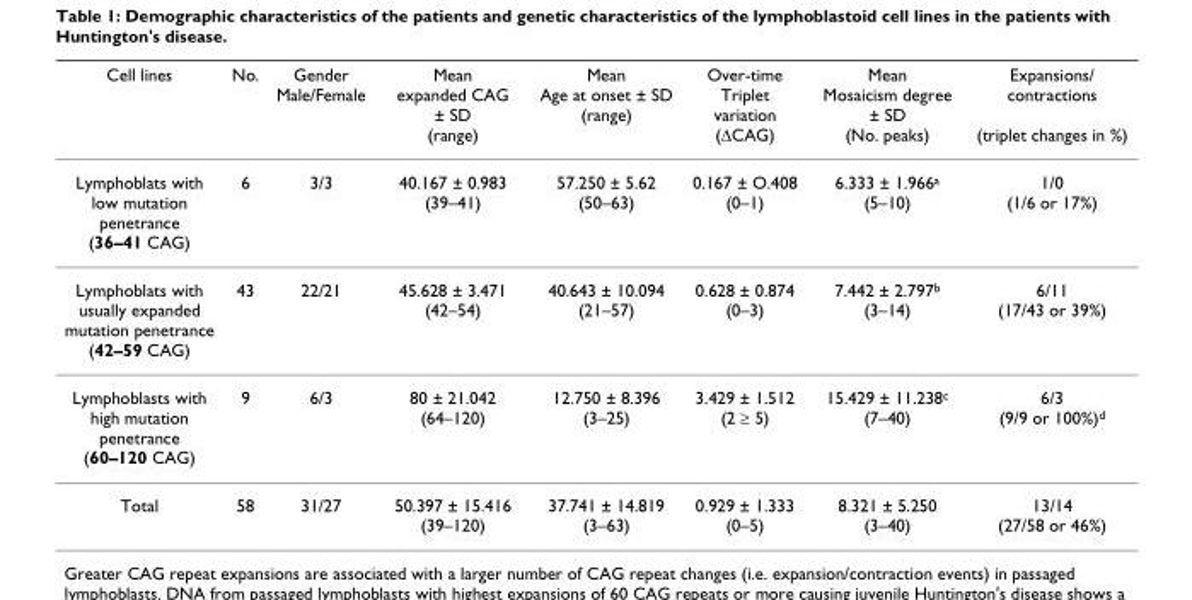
<table><thead><tr><td>Cell lines</td><td>No.</td><td>Gender Male/Female</td><td>Mean expanded CAG ± SD (range)</td><td>Mean Age at onset ± SD (range)</td><td>Over-time Triplet variation (ΔCAG)</td><td>Mean Mosaicism degree ± SD (No. peaks)</td><td>Expansions/ contractions (triplet changes in %)</td></tr></thead><tbody><tr><td>Lymphoblats with low mutation penetrance (36–41 CAG)</td><td>6</td><td>3/3</td><td>40.167 ± 0.983 (39–41)</td><td>57.250 ± 5.62 (50–63)</td><td>0.167 ± O.408 (0–1)</td><td>6.333 ± 1.966<sup>a</sup> (5–10)</td><td>1/0 (1/6 or 17%)</td></tr><tr><td>Lymphoblats with usually expanded mutation penetrance (42–59 CAG)</td><td>43</td><td>22/21</td><td>45.628 ± 3.471 (42–54)</td><td>40.643 ± 10.094 (21–57)</td><td>0.628 ± 0.874 (0–3)</td><td>7.442 ± 2.797<sup>b</sup> (3–14)</td><td>6/11 (17/43 or 39%)</td></tr><tr><td>Lymphoblasts with high mutation penetrance (60–120 CAG)</td><td>9</td><td>6/3</td><td>80 ± 21.042 (64–120)</td><td>12.750 ± 8.396 (3–25)</td><td>3.429 ± 1.512 (2 ≥ 5)</td><td>15.429 ± 11.238<sup>c</sup> (7–40)</td><td>6/3 (9/9 or 100%)<sup>d</sup></td></tr><tr><td>Total</td><td>58</td><td>31/27</td><td>50.397 ± 15.416 (39–120)</td><td>37.741 ± 14.819 (3–63)</td><td>0.929 ± 1.333 (0–5)</td><td>8.321 ± 5.250 (3–40)</td><td>13/14 (27/58 or 46%)</td></tr></tbody></table>